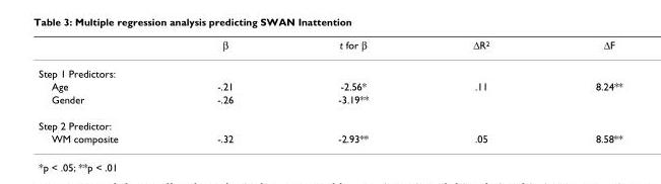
<table><thead><tr><td></td><td>β</td><td>t for β</td><td>ΔR<sup>2</sup></td><td>ΔF</td></tr></thead><tbody><tr><td colspan="5">Step 1 Predictors:</td></tr><tr><td>Age</td><td>-.21</td><td>-2.56*</td><td>.11</td><td>8.24**</td></tr><tr><td>Gender</td><td>-.26</td><td>-3.19**</td><td></td><td></td></tr><tr><td colspan="5">Step 2 Predictor:</td></tr><tr><td>WM composite</td><td>-.32</td><td>-2.93**</td><td>.05</td><td>8.58**</td></tr></tbody></table>